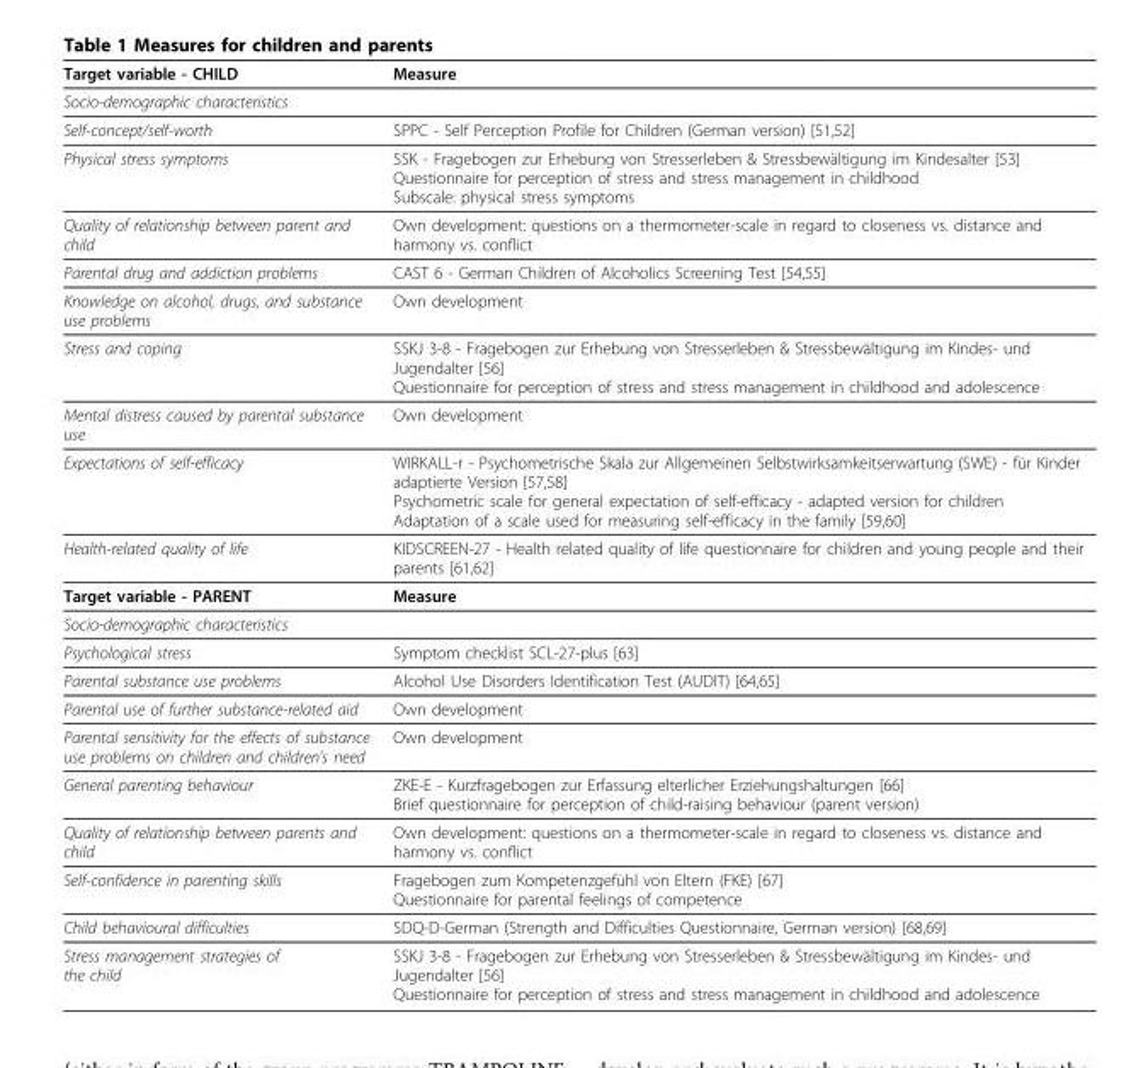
<table><thead><tr><td>Target variable - CHILD</td><td>Measure</td></tr></thead><tbody><tr><td colspan="2">Socio-demographic characteristics</td></tr><tr><td>Self-concept/self-worth</td><td>SPPC - Self Perception Profile for Children (German version) [51,52]</td></tr><tr><td>Physical stress symptoms</td><td>SSK - Fragebogen zur Erhebung von Stresserleben &amp; Stressbewältigung im Kindesalter [53] Questionnaire for perception of stress and stress management in childhood Subscale: physical stress symptoms</td></tr><tr><td>Quality of relationship between parent and child</td><td>Own development: questions on a thermometer-scale in regard to closeness vs. distance and harmony vs. conflict</td></tr><tr><td>Parental drug and addiction problems</td><td>CAST 6 - German Children of Alcoholics Screening Test [54,55]</td></tr><tr><td>Knowledge on alcohol, drugs, and substance use problems</td><td>Own development</td></tr><tr><td>Stress and coping</td><td>SSKJ 3-8 - Fragebogen zur Erhebung von Stresserleben &amp; Stressbewältigung im Kindes- und Jugendalter [56] Questionnaire for perception of stress and stress management in childhood and adolescence</td></tr><tr><td>Mental distress caused by parental substance use</td><td>Own development</td></tr><tr><td>Expectations of self-efficacy</td><td>WIRKALL-r - Psychometrische Skala zur Allgemeinen Selbstwirksamkeitserwartung (SWE) - für Kinder adaptierte Version [57,58] Psychometric scale for general expectation of self-efficacy - adapted version for children Adaptation of a scale used for measuring self-efficacy in the family [59,60]</td></tr><tr><td>Health-related quality of life</td><td>KIDSCREEN-27 - Health related quality of life questionnaire for children and young people and their parents [61,62]</td></tr><tr><td>Target variable - PARENT</td><td>Measure</td></tr><tr><td colspan="2">Socio-demographic characteristics</td></tr><tr><td>Psychological stress</td><td>Symptom checklist SCL-27-plus [63]</td></tr><tr><td>Parental substance use problems</td><td>Alcohol Use Disorders Identification Test (AUDIT) [64,65]</td></tr><tr><td>Parental use of further substance-related aid</td><td>Own development</td></tr><tr><td>Parental sensitivity for the effects of substance use problems on children and children’s need</td><td>Own development</td></tr><tr><td>General parenting behaviour</td><td>ZKE-E - Kurzfragebogen zur Erfassung elterlicher Erziehungshaltungen [66] Brief questionnaire for perception of child-raising behaviour (parent version)</td></tr><tr><td>Quality of relationship between parents and child</td><td>Own development: questions on a thermometer-scale in regard to closeness vs. distance and harmony vs. conflict</td></tr><tr><td>Self-confidence in parenting skills</td><td>Fragebogen zum Kompetenzgefühl von Eltern (FKE) [67] Questionnaire for parental feelings of competence</td></tr><tr><td>Child behavioural difficulties</td><td>SDQ-D-German (Strength and Difficulties Questionnaire, German version) [68,69]</td></tr><tr><td>Stress management strategies of the child</td><td>SSKJ 3-8 - Fragebogen zur Erhebung von Stresserleben &amp; Stressbewältigung im Kindes- und Jugendalter [56] Questionnaire for perception of stress and stress management in childhood and adolescence</td></tr></tbody></table>